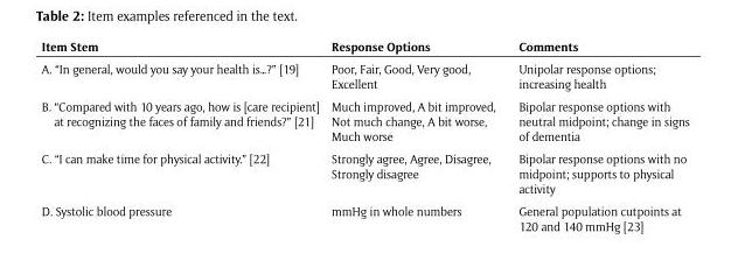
<table><thead><tr><td>Item Stem</td><td>Response Options</td><td>Comments</td></tr></thead><tbody><tr><td>A. “In general, would you say your health is…?” [19]</td><td>Poor, Fair, Good, Very good, Excellent</td><td>Unipolar response options; increasing health</td></tr><tr><td>B. “Compared with 10 years ago, how is [care recipient] at recognizing the faces of family and friends?” [21]</td><td>Much improved, A bit improved, Not much change, A bit worse, Much worse</td><td>Bipolar response options with neutral midpoint; change in signs of dementia</td></tr><tr><td>C. “I can make time for physical activity.” [22]</td><td>Strongly agree, Agree, Disagree, Strongly disagree</td><td>Bipolar response options with no midpoint; supports to physical activity</td></tr><tr><td>D. Systolic blood pressure</td><td>mmHg in whole numbers</td><td>General population cutpoints at 120 and 140 mmHg [23]</td></tr></tbody></table>